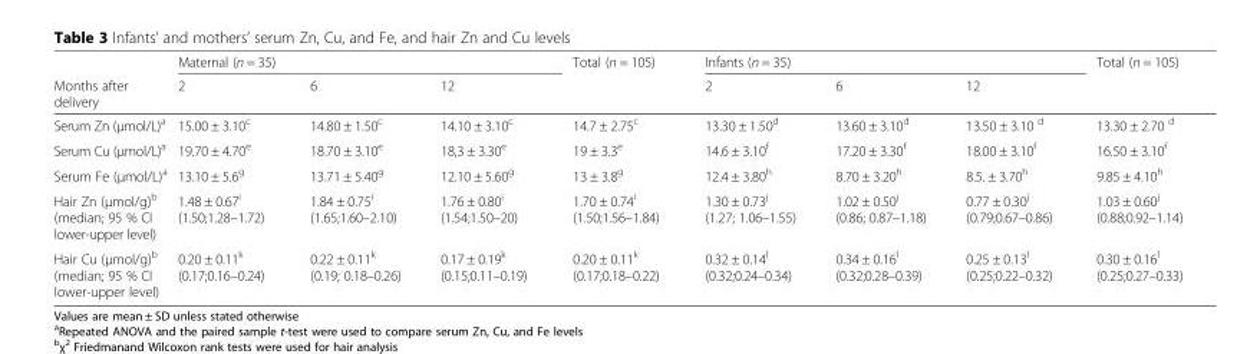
<table><thead><tr><td rowspan="2">Months after delivery</td><td colspan="3">Maternal (n = 35)</td><td rowspan="2">Total (n = 105)</td><td colspan="3">Infants (n = 35)</td><td rowspan="2">Total (n = 105)</td></tr><tr><td>2</td><td>6</td><td>12</td><td>2</td><td>6</td><td>12</td></tr></thead><tbody><tr><td>Serum Zn (μmol/L)<sup>a</sup></td><td>15.00 ± 3.10<sup>c</sup></td><td>14.80 ± 1.50<sup>c</sup></td><td>14.10 ± 3.10<sup>c</sup></td><td>14.7 ± 2.75<sup>c</sup></td><td>13.30 ± 1.50<sup>d</sup></td><td>13.60 ± 3.10<sup>d</sup></td><td>13.50 ± 3.10 <sup>d</sup></td><td>13.30 ± 2.70 <sup>d</sup></td></tr><tr><td>Serum Cu (μmol/L)<sup>a</sup></td><td>19.70 ± 4.70<sup>e</sup></td><td>18.70 ± 3.10<sup>e</sup></td><td>18,3 ± 3.30<sup>e</sup></td><td>19 ± 3.3<sup>e</sup></td><td>14.6 ± 3.10<sup>f</sup></td><td>17.20 ± 3.30<sup>f</sup></td><td>18.00 ± 3.10<sup>f</sup></td><td>16.50 ± 3.10<sup>f</sup></td></tr><tr><td>Serum Fe (μmol/L)<sup>a</sup></td><td>13.10 ± 5.6<sup>g</sup></td><td>13.71 ± 5.40<sup>g</sup></td><td>12.10 ± 5.60<sup>g</sup></td><td>13 ± 3.8<sup>g</sup></td><td>12.4 ± 3.80<sup>h</sup></td><td>8.70 ± 3.20<sup>h</sup></td><td>8.5. ± 3.70<sup>h</sup></td><td>9.85 ± 4.10<sup>h</sup></td></tr><tr><td>Hair Zn (μmol/g)<sup>b</sup> (median; 95 % CI lower-upper level)</td><td>1.48 ± 0.67<sup>i</sup> (1.50;1.28–1.72)</td><td>1.84 ± 0.75<sup>i</sup> (1.65;1.60–2.10)</td><td>1.76 ± 0.80<sup>i</sup> (1.54;1.50–20)</td><td>1.70 ± 0.74<sup>i</sup> (1.50;1.56–1.84)</td><td>1.30 ± 0.73<sup>j</sup> (1.27; 1.06–1.55)</td><td>1.02 ± 0.50<sup>j</sup> (0.86; 0.87–1.18)</td><td>0.77 ± 0.30<sup>j</sup> (0.79;0.67–0.86)</td><td>1.03 ± 0.60<sup>j</sup> (0.88;0.92–1.14)</td></tr><tr><td>Hair Cu (μmol/g)<sup>b</sup> (median; 95 % CI lower-upper level)</td><td>0.20 ± 0.11<sup>k</sup> (0.17;0.16–0.24)</td><td>0.22 ± 0.11<sup>k</sup> (0.19; 0.18–0.26)</td><td>0.17 ± 0.19<sup>k</sup> (0.15;0.11–0.19)</td><td>0.20 ± 0.11<sup>k</sup> (0.17;0.18–0.22)</td><td>0.32 ± 0.14<sup>l</sup> (0.32;0.24–0.34)</td><td>0.34 ± 0.16<sup>l</sup> (0.32;0.28–0.39)</td><td>0.25 ± 0.13<sup>l</sup> (0.25;0.22–0.32)</td><td>0.30 ± 0.16<sup>l</sup> (0.25;0.27–0.33)</td></tr></tbody></table>